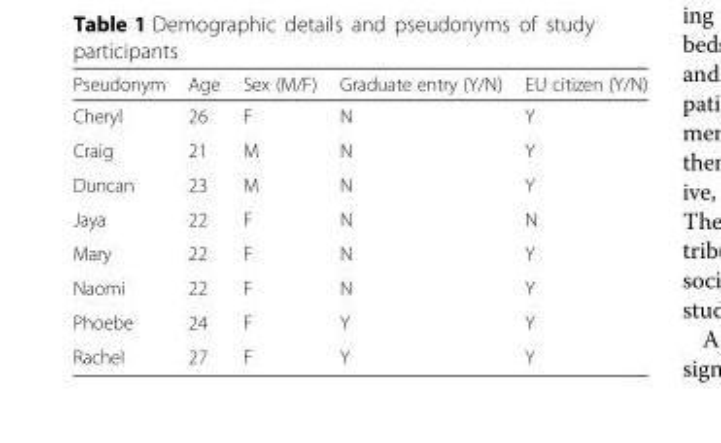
<table><thead><tr><td>Pseudonym</td><td>Age</td><td>Sex (M/F)</td><td>Graduate entry (Y/N)</td><td>EU citizen (Y/N)</td></tr></thead><tbody><tr><td>Cheryl</td><td>26</td><td>F</td><td>N</td><td>Y</td></tr><tr><td>Craig</td><td>21</td><td>M</td><td>N</td><td>Y</td></tr><tr><td>Duncan</td><td>23</td><td>M</td><td>N</td><td>Y</td></tr><tr><td>Jaya</td><td>22</td><td>F</td><td>N</td><td>N</td></tr><tr><td>Mary</td><td>22</td><td>F</td><td>N</td><td>Y</td></tr><tr><td>Naomi</td><td>22</td><td>F</td><td>N</td><td>Y</td></tr><tr><td>Phoebe</td><td>24</td><td>F</td><td>Y</td><td>Y</td></tr><tr><td>Rachel</td><td>27</td><td>F</td><td>Y</td><td>Y</td></tr></tbody></table>